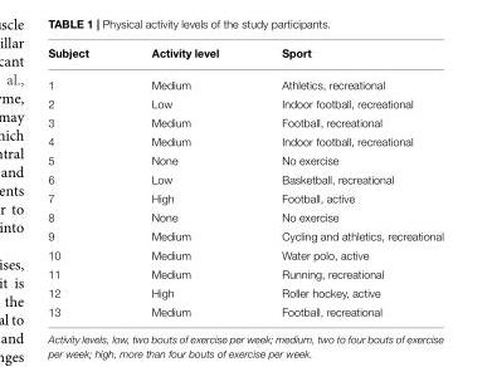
<table><thead><tr><td>Subject</td><td>Activity level</td><td>Sport</td></tr></thead><tbody><tr><td>1</td><td>Medium</td><td>Athletics, recreational</td></tr><tr><td>2</td><td>Low</td><td>Indoor football, recreational</td></tr><tr><td>3</td><td>Medium</td><td>Football, recreational</td></tr><tr><td>4</td><td>Medium</td><td>Indoor football, recreational</td></tr><tr><td>5</td><td>None</td><td>No exercise</td></tr><tr><td>6</td><td>Low</td><td>Basketball, recreational</td></tr><tr><td>7</td><td>High</td><td>Football, active</td></tr><tr><td>8</td><td>None</td><td>No exercise</td></tr><tr><td>9</td><td>Medium</td><td>Cycling and athletics, recreational</td></tr><tr><td>10</td><td>Medium</td><td>Water polo, active</td></tr><tr><td>11</td><td>Medium</td><td>Running, recreational</td></tr><tr><td>12</td><td>High</td><td>Roller hockey, active</td></tr><tr><td>13</td><td>Medium</td><td>Football, recreational</td></tr></tbody></table>